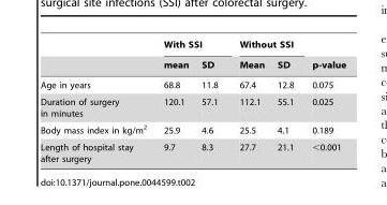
<table><thead><tr><td rowspan="2"></td><td colspan="2">With SSI</td><td colspan="2">Without SSI</td><td rowspan="2">p-value</td></tr><tr><td>mean</td><td>SD</td><td>Mean</td><td>SD</td></tr></thead><tbody><tr><td>Age in years</td><td>68.8</td><td>11.8</td><td>67.4</td><td>12.8</td><td>0.075</td></tr><tr><td>Duration of surgery in minutes</td><td>120.1</td><td>57.1</td><td>112.1</td><td>55.1</td><td>0.025</td></tr><tr><td>Body mass index in kg/m<sup>2</sup></td><td>25.9</td><td>4.6</td><td>25.5</td><td>4.1</td><td>0.189</td></tr><tr><td>Length of hospital stay after surgery</td><td>9.7</td><td>8.3</td><td>27.7</td><td>21.1</td><td>&lt;0.001</td></tr></tbody></table>